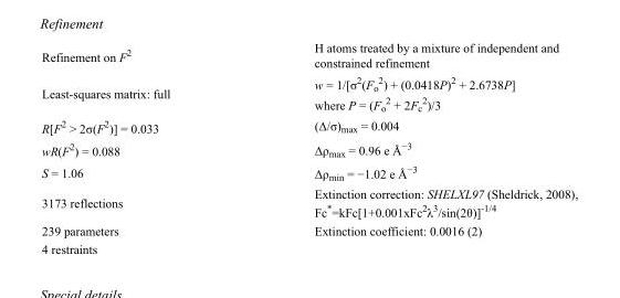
<table><tbody><tr><td>Refinement on F<sup>2</sup></td><td>H atoms treated by a mixture of independent and constrained refinement</td></tr><tr><td>Least-squares matrix: full</td><td>w = 1/[σ<sup>2</sup>(F<sub>o</sub> <sup>2</sup>) + (0.0418P)<sup>2</sup> + 2.6738P] where P = (F<sub>o</sub> <sup>2</sup> + 2F<sub>c</sub> <sup>2</sup>)/3</td></tr><tr><td>R[F<sup>2</sup> &gt; 2σ(F<sup>2</sup>)] = 0.033</td><td>(Δ/σ)<sub>max</sub> = 0.004</td></tr><tr><td>wR(F<sup>2</sup>) = 0.088</td><td>Δρ<sub>max</sub> = 0.96 e Å<sup>−3</sup></td></tr><tr><td>S = 1.06</td><td>Δρ<sub>min</sub> = −1.02 e Å<sup>−3</sup></td></tr><tr><td>3173 reflections</td><td>Extinction correction: SHELXL97 (Sheldrick, 2008), Fc*=kFc[1+0.001xFc<sup>2</sup>λ<sup>3</sup>/sin(2θ)]<sup>-1/4</sup></td></tr><tr><td>239 parameters</td><td>Extinction coefficient: 0.0016 (2)</td></tr><tr><td>4 restraints</td><td></td></tr></tbody></table>